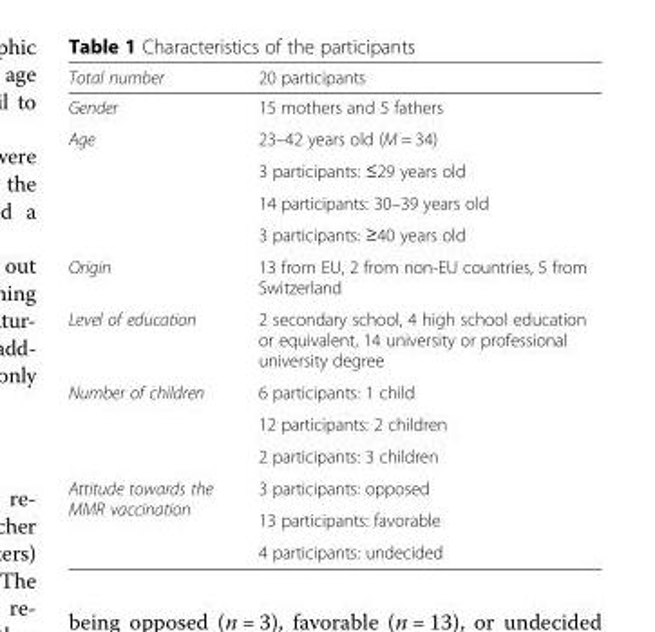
<table><thead><tr><td>Total number</td><td>20 participants</td></tr></thead><tbody><tr><td>Gender</td><td>15 mothers and 5 fathers</td></tr><tr><td rowspan="4">Age</td><td>23–42 years old (M = 34)</td></tr><tr><td>3 participants: ≤29 years old</td></tr><tr><td>14 participants: 30–39 years old</td></tr><tr><td>3 participants: ≥40 years old</td></tr><tr><td>Origin</td><td>13 from EU, 2 from non-EU countries, 5 from Switzerland</td></tr><tr><td>Level of education</td><td>2 secondary school, 4 high school education or equivalent, 14 university or professional university degree</td></tr><tr><td rowspan="3">Number of children</td><td>6 participants: 1 child</td></tr><tr><td>12 participants: 2 children</td></tr><tr><td>2 participants: 3 children</td></tr><tr><td rowspan="3">Attitude towards the MMR vaccination</td><td>3 participants: opposed</td></tr><tr><td>13 participants: favorable</td></tr><tr><td>4 participants: undecided</td></tr></tbody></table>